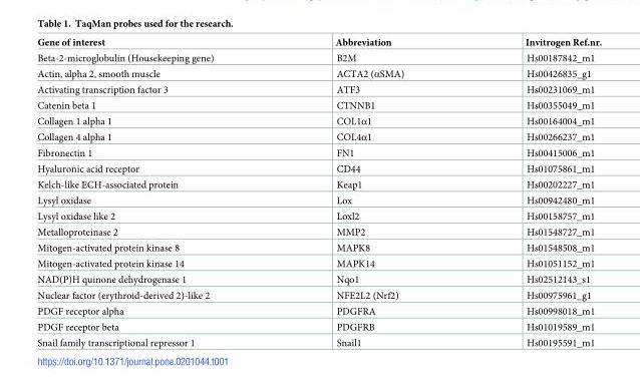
<table><thead><tr><td>Gene of interest</td><td>Abbreviation</td><td>Invitrogen Ref.nr.</td></tr></thead><tbody><tr><td>Beta-2-microglobulin (Housekeeping gene)</td><td>B2M</td><td>Hs00187842_m1</td></tr><tr><td>Actin, alpha 2, smooth muscle</td><td>ACTA2 (αSMA)</td><td>Hs00426835_g1</td></tr><tr><td>Activating transcription factor 3</td><td>ATF3</td><td>Hs00231069_m1</td></tr><tr><td>Catenin beta 1</td><td>CTNNB1</td><td>Hs00355049_m1</td></tr><tr><td>Collagen 1 alpha 1</td><td>COL1α1</td><td>Hs00164004_m1</td></tr><tr><td>Collagen 4 alpha 1</td><td>COL4α1</td><td>Hs00266237_m1</td></tr><tr><td>Fibronectin 1</td><td>FN1</td><td>Hs00415006_m1</td></tr><tr><td>Hyaluronic acid receptor</td><td>CD44</td><td>Hs01075861_m1</td></tr><tr><td>Kelch-like ECH-associated protein</td><td>Keap1</td><td>Hs00202227_m1</td></tr><tr><td>Lysyl oxidase</td><td>Lox</td><td>Hs00942480_m1</td></tr><tr><td>Lysyl oxidase like 2</td><td>Loxl2</td><td>Hs00158757_m1</td></tr><tr><td>Metalloproteinase 2</td><td>MMP2</td><td>Hs01548727_m1</td></tr><tr><td>Mitogen-activated protein kinase 8</td><td>MAPK8</td><td>Hs01548508_m1</td></tr><tr><td>Mitogen-activated protein kinase 14</td><td>MAPK14</td><td>Hs01051152_m1</td></tr><tr><td>NAD(P)H quinone dehydrogenase 1</td><td>Nqo1</td><td>Hs02512143_s1</td></tr><tr><td>Nuclear factor (erythroid-derived 2)-like 2</td><td>NFE2L2 (Nrf2)</td><td>Hs00975961_g1</td></tr><tr><td>PDGF receptor alpha</td><td>PDGFRA</td><td>Hs00998018_m1</td></tr><tr><td>PDGF receptor beta</td><td>PDGFRB</td><td>Hs01019589_m1</td></tr><tr><td>Snail family transcriptional repressor 1</td><td>Snail1</td><td>Hs00195591_m1</td></tr></tbody></table>